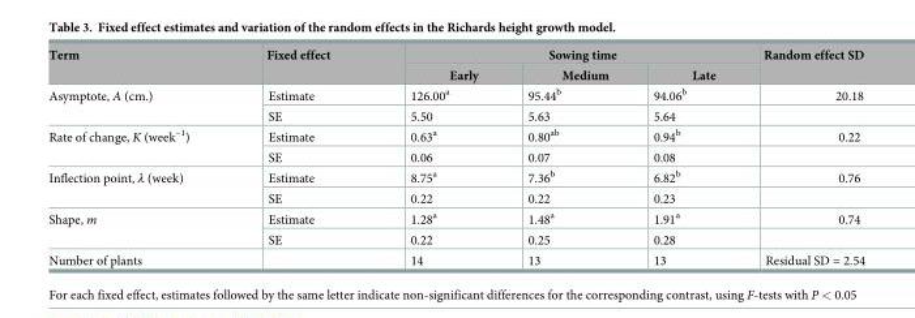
<table><thead><tr><td rowspan="2">Term</td><td rowspan="2">Fixed effect</td><td colspan="3">Sowing time</td><td rowspan="2">Random effect SD</td></tr><tr><td>Early</td><td>Medium</td><td>Late</td></tr></thead><tbody><tr><td rowspan="2">Asymptote, A (cm.)</td><td>Estimate</td><td>126.00<sup>a</sup></td><td>95.44<sup>b</sup></td><td>94.06<sup>b</sup></td><td>20.18</td></tr><tr><td>SE</td><td>5.50</td><td>5.63</td><td>5.64</td><td></td></tr><tr><td rowspan="2">Rate of change, K (week<sup>–1</sup>)</td><td>Estimate</td><td>0.63<sup>a</sup></td><td>0.80<sup>ab</sup></td><td>0.94<sup>b</sup></td><td>0.22</td></tr><tr><td>SE</td><td>0.06</td><td>0.07</td><td>0.08</td><td></td></tr><tr><td rowspan="2">Inflection point, λ (week)</td><td>Estimate</td><td>8.75<sup>a</sup></td><td>7.36<sup>b</sup></td><td>6.82<sup>b</sup></td><td>0.76</td></tr><tr><td>SE</td><td>0.22</td><td>0.22</td><td>0.23</td><td></td></tr><tr><td rowspan="2">Shape, m</td><td>Estimate</td><td>1.28<sup>a</sup></td><td>1.48<sup>a</sup></td><td>1.91<sup>a</sup></td><td>0.74</td></tr><tr><td>SE</td><td>0.22</td><td>0.25</td><td>0.28</td><td></td></tr><tr><td>Number of plants</td><td></td><td>14</td><td>13</td><td>13</td><td>Residual SD = 2.54</td></tr></tbody></table>